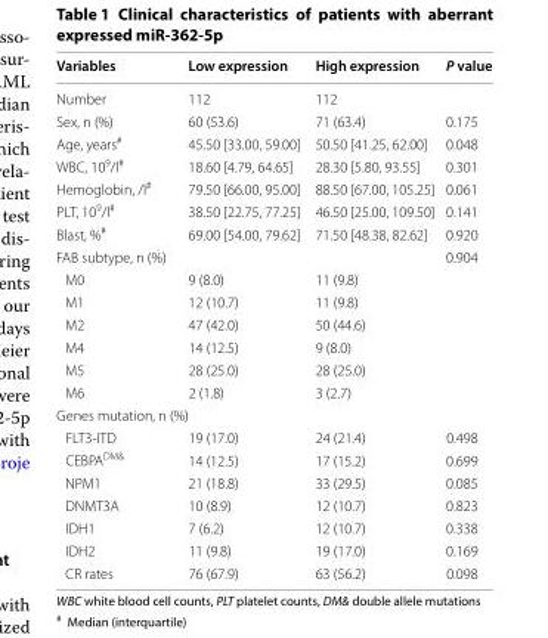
<table><thead><tr><td>Variables</td><td>Low expression</td><td>High expression</td><td>P value</td></tr></thead><tbody><tr><td>Number</td><td>112</td><td>112</td><td></td></tr><tr><td>Sex, n (%)</td><td>60 (53.6)</td><td>71 (63.4)</td><td>0.175</td></tr><tr><td>Age, years<sup>#</sup></td><td>45.50 [33.00, 59.00]</td><td>50.50 [41.25, 62.00]</td><td>0.048</td></tr><tr><td>WBC, 10<sup>9</sup>/l<sup>#</sup></td><td>18.60 [4.79, 64.65]</td><td>28.30 [5.80, 93.55]</td><td>0.301</td></tr><tr><td>Hemoglobin, /l<sup>#</sup></td><td>79.50 [66.00, 95.00]</td><td>88.50 [67.00, 105.25]</td><td>0.061</td></tr><tr><td>PLT, 10<sup>9</sup>/l<sup>#</sup></td><td>38.50 [22.75, 77.25]</td><td>46.50 [25.00, 109.50]</td><td>0.141</td></tr><tr><td>Blast, %<sup>#</sup></td><td>69.00 [54.00, 79.62]</td><td>71.50 [48.38, 82.62]</td><td>0.920</td></tr><tr><td colspan="3">FAB subtype, n (%)</td><td>0.904</td></tr><tr><td>M0</td><td>9 (8.0)</td><td colspan="2">11 (9.8)</td></tr><tr><td>M1</td><td>12 (10.7)</td><td colspan="2">11 (9.8)</td></tr><tr><td>M2</td><td>47 (42.0)</td><td colspan="2">50 (44.6)</td></tr><tr><td>M4</td><td>14 (12.5)</td><td colspan="2">9 (8.0)</td></tr><tr><td>M5</td><td>28 (25.0)</td><td colspan="2">28 (25.0)</td></tr><tr><td>M6</td><td>2 (1.8)</td><td colspan="2">3 (2.7)</td></tr><tr><td colspan="4">Genes mutation, n (%)</td></tr><tr><td>FLT3‑ITD</td><td>19 (17.0)</td><td>24 (21.4)</td><td>0.498</td></tr><tr><td>CEBPA<sup>DM&amp;</sup></td><td>14 (12.5)</td><td>17 (15.2)</td><td>0.699</td></tr><tr><td>NPM1</td><td>21 (18.8)</td><td>33 (29.5)</td><td>0.085</td></tr><tr><td>DNMT3A</td><td>10 (8.9)</td><td>12 (10.7)</td><td>0.823</td></tr><tr><td>IDH1</td><td>7 (6.2)</td><td>12 (10.7)</td><td>0.338</td></tr><tr><td>IDH2</td><td>11 (9.8)</td><td>19 (17.0)</td><td>0.169</td></tr><tr><td>CR rates</td><td>76 (67.9)</td><td>63 (56.2)</td><td>0.098</td></tr></tbody></table>